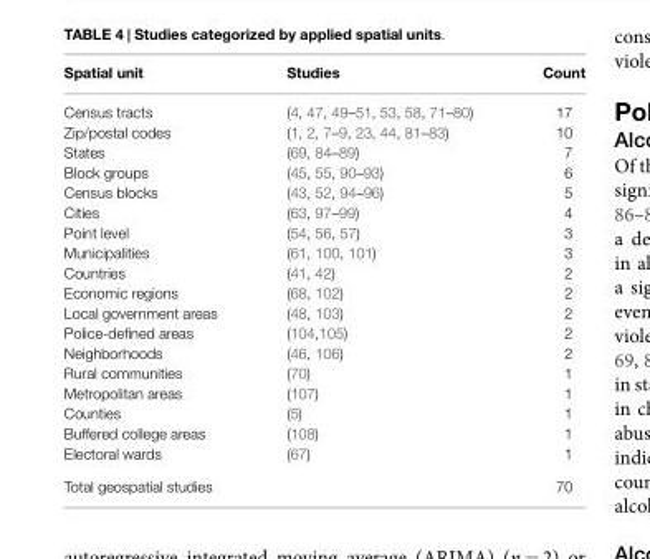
<table><thead><tr><td>Spatial unit</td><td>Studies</td><td>Count</td></tr></thead><tbody><tr><td>Census tracts</td><td>(4, 47, 49–51, 53, 58, 71–80)</td><td>17</td></tr><tr><td>Zip/postal codes</td><td>(1, 2, 7–9, 23, 44, 81–83)</td><td>10</td></tr><tr><td>States</td><td>(69, 84–89)</td><td>7</td></tr><tr><td>Block groups</td><td>(45, 55, 90–93)</td><td>6</td></tr><tr><td>Census blocks</td><td>(43, 52, 94–96)</td><td>5</td></tr><tr><td>Cities</td><td>(63, 97–99)</td><td>4</td></tr><tr><td>Point level</td><td>(54, 56, 57)</td><td>3</td></tr><tr><td>Municipalities</td><td>(61, 100, 101)</td><td>3</td></tr><tr><td>Countries</td><td>(41, 42)</td><td>2</td></tr><tr><td>Economic regions</td><td>(68, 102)</td><td>2</td></tr><tr><td>Local government areas</td><td>(48, 103)</td><td>2</td></tr><tr><td>Police-defined areas</td><td>(104,105)</td><td>2</td></tr><tr><td>Neighborhoods</td><td>(46, 106)</td><td>2</td></tr><tr><td>Rural communities</td><td>(70)</td><td>1</td></tr><tr><td>Metropolitan areas</td><td>(107)</td><td>1</td></tr><tr><td>Counties</td><td>(5)</td><td>1</td></tr><tr><td>Buffered college areas</td><td>(108)</td><td>1</td></tr><tr><td>Electoral wards</td><td>(67)</td><td>1</td></tr><tr><td>Total geospatial studies</td><td></td><td>70</td></tr></tbody></table>